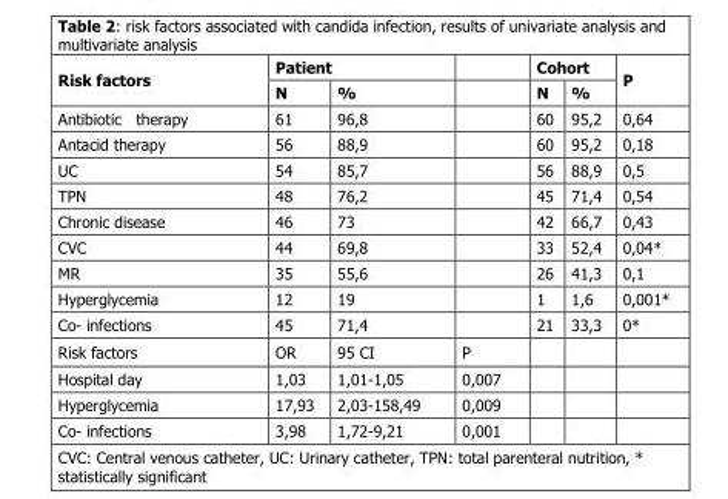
<table><thead><tr><td rowspan="2">Risk factors</td><td colspan="2">Patient</td><td rowspan="2"></td><td colspan="2">Cohort</td><td rowspan="2">P</td></tr><tr><td>N</td><td>%</td><td>N</td><td>%</td></tr></thead><tbody><tr><td>Antibiotic therapy</td><td>61</td><td>96,8</td><td></td><td>60</td><td>95,2</td><td>0,64</td></tr><tr><td>Antacid therapy</td><td>56</td><td>88,9</td><td></td><td>60</td><td>95,2</td><td>0,18</td></tr><tr><td>UC</td><td>54</td><td>85,7</td><td></td><td>56</td><td>88,9</td><td>0,5</td></tr><tr><td>TPN</td><td>48</td><td>76,2</td><td></td><td>45</td><td>71,4</td><td>0,54</td></tr><tr><td>Chronic disease</td><td>46</td><td>73</td><td></td><td>42</td><td>66,7</td><td>0,43</td></tr><tr><td>CVC</td><td>44</td><td>69,8</td><td></td><td>33</td><td>52,4</td><td>0,04*</td></tr><tr><td>MR</td><td>35</td><td>55,6</td><td></td><td>26</td><td>41,3</td><td>0,1</td></tr><tr><td>Hyperglycemia</td><td>12</td><td>19</td><td></td><td>1</td><td>1,6</td><td>0,001*</td></tr><tr><td>Co- infections</td><td>45</td><td>71,4</td><td></td><td>21</td><td>33,3</td><td>0*</td></tr><tr><td>Risk factors</td><td>OR</td><td>95 CI</td><td>P</td><td></td><td></td><td></td></tr><tr><td>Hospital day</td><td>1,03</td><td>1,01-1,05</td><td>0,007</td><td></td><td></td><td></td></tr><tr><td>Hyperglycemia</td><td>17,93</td><td>2,03-158,49</td><td>0,009</td><td></td><td></td><td></td></tr><tr><td>Co- infections</td><td>3,98</td><td>1,72-9,21</td><td>0,001</td><td></td><td></td><td></td></tr></tbody></table>